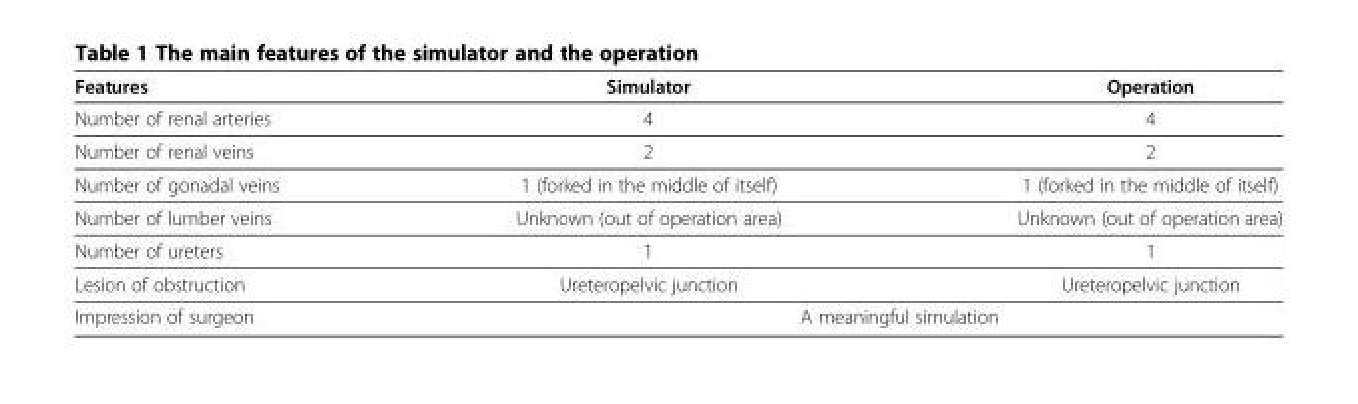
<table><thead><tr><td>Features</td><td>Simulator</td><td>Operation</td></tr></thead><tbody><tr><td>Number of renal arteries</td><td>4</td><td>4</td></tr><tr><td>Number of renal veins</td><td>2</td><td>2</td></tr><tr><td>Number of gonadal veins</td><td>1 (forked in the middle of itself)</td><td>1 (forked in the middle of itself)</td></tr><tr><td>Number of lumber veins</td><td>Unknown (out of operation area)</td><td>Unknown (out of operation area)</td></tr><tr><td>Number of ureters</td><td>1</td><td>1</td></tr><tr><td>Lesion of obstruction</td><td>Ureteropelvic junction</td><td>Ureteropelvic junction</td></tr><tr><td>Impression of surgeon</td><td colspan="2">A meaningful simulation</td></tr></tbody></table>